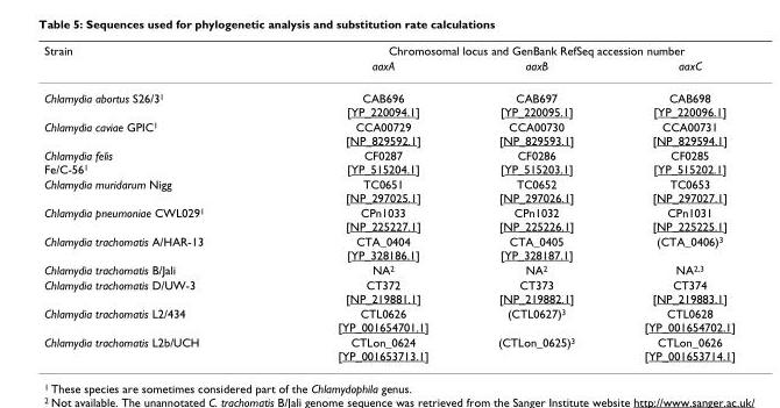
<table><thead><tr><td rowspan="2">Strain</td><td colspan="3">Chromosomal locus and GenBank RefSeq accession number</td></tr><tr><td>aaxA</td><td>aaxB</td><td>aaxC</td></tr></thead><tbody><tr><td>Chlamydia abortus S26/3<sup>1</sup></td><td>CAB696 [YP_220094.1]</td><td>CAB697 [YP_220095.1]</td><td>CAB698 [YP_220096.1]</td></tr><tr><td>Chlamydia caviae GPIC<sup>1</sup></td><td>CCA00729 [NP_829592.1]</td><td>CCA00730 [NP_829593.1]</td><td>CCA00731 [NP_829594.1]</td></tr><tr><td>Chlamydia felis Fe/C-56<sup>1</sup></td><td>CF0287 [YP_515204.1]</td><td>CF0286 [YP_515203.1]</td><td>CF0285 [YP_515202.1]</td></tr><tr><td>Chlamydia muridarum Nigg</td><td>TC0651 [NP_297025.1]</td><td>TC0652 [NP_297026.1]</td><td>TC0653 [NP_297027.1]</td></tr><tr><td>Chlamydia pneumoniae CWL029<sup>1</sup></td><td>CPn1033 [NP_225227.1]</td><td>CPn1032 [NP_225226.1]</td><td>CPn1031 [NP_225225.1]</td></tr><tr><td>Chlamydia trachomatis A/HAR-13</td><td>CTA_0404 [YP_328186.1]</td><td>CTA_0405 [YP_328187.1]</td><td>(CTA_0406)<sup>3</sup></td></tr><tr><td>Chlamydia trachomatis B/Jali</td><td>NA<sup>2</sup></td><td>NA<sup>2</sup></td><td>NA<sup>2,3</sup></td></tr><tr><td>Chlamydia trachomatis D/UW-3</td><td>CT372 [NP_219881.1]</td><td>CT373 [NP_219882.1]</td><td>CT374 [NP_219883.1]</td></tr><tr><td>Chlamydia trachomatis L2/434</td><td>CTL0626 [YP_001654701.1]</td><td>(CTL0627)<sup>3</sup></td><td>CTL0628 [YP_001654702.1]</td></tr><tr><td>Chlamydia trachomatis L2b/UCH</td><td>CTLon_0624 [YP_001653713.1]</td><td>(CTLon_0625)<sup>3</sup></td><td>CTLon_0626 [YP_001653714.1]</td></tr></tbody></table>